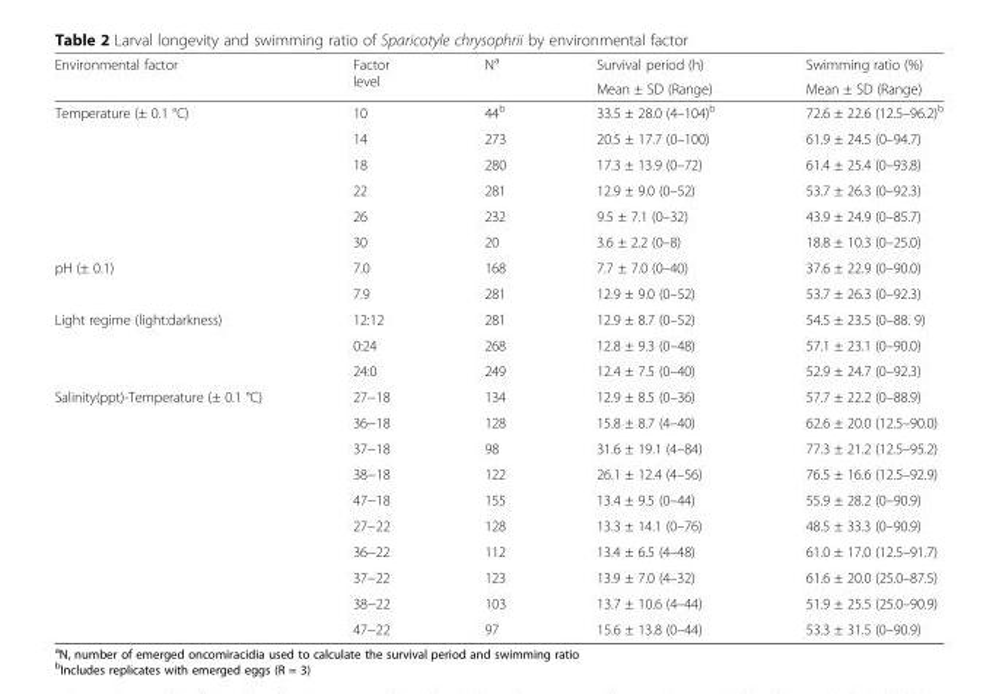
<table><thead><tr><td rowspan="2">Environmental factor</td><td rowspan="2">Factor level</td><td rowspan="2">N<sup>a</sup></td><td rowspan="2">Survival period (h) Mean ± SD (Range)</td><td rowspan="2">Swimming ratio (%) Mean ± SD (Range)</td></tr><tr></tr></thead><tbody><tr><td rowspan="6">Temperature (± 0.1 °C)</td><td>10</td><td>44<sup>b</sup></td><td>33.5 ± 28.0 (4–104)<sup>b</sup></td><td>72.6 ± 22.6 (12.5–96.2)<sup>b</sup></td></tr><tr><td>14</td><td>273</td><td>20.5 ± 17.7 (0–100)</td><td>61.9 ± 24.5 (0–94.7)</td></tr><tr><td>18</td><td>280</td><td>17.3 ± 13.9 (0–72)</td><td>61.4 ± 25.4 (0–93.8)</td></tr><tr><td>22</td><td>281</td><td>12.9 ± 9.0 (0–52)</td><td>53.7 ± 26.3 (0–92.3)</td></tr><tr><td>26</td><td>232</td><td>9.5 ± 7.1 (0–32)</td><td>43.9 ± 24.9 (0–85.7)</td></tr><tr><td>30</td><td>20</td><td>3.6 ± 2.2 (0–8)</td><td>18.8 ± 10.3 (0–25.0)</td></tr><tr><td rowspan="2">pH (± 0.1)</td><td>7.0</td><td>168</td><td>7.7 ± 7.0 (0–40)</td><td>37.6 ± 22.9 (0–90.0)</td></tr><tr><td>7.9</td><td>281</td><td>12.9 ± 9.0 (0–52)</td><td>53.7 ± 26.3 (0–92.3)</td></tr><tr><td rowspan="3">Light regime (light:darkness)</td><td>12:12</td><td>281</td><td>12.9 ± 8.7 (0–52)</td><td>54.5 ± 23.5 (0–88. 9)</td></tr><tr><td>0:24</td><td>268</td><td>12.8 ± 9.3 (0–48)</td><td>57.1 ± 23.1 (0–90.0)</td></tr><tr><td>24:0</td><td>249</td><td>12.4 ± 7.5 (0–40)</td><td>52.9 ± 24.7 (0–92.3)</td></tr><tr><td rowspan="10">Salinity(ppt)-Temperature (± 0.1 °C)</td><td>27−18</td><td>134</td><td>12.9 ± 8.5 (0–36)</td><td>57.7 ± 22.2 (0–88.9)</td></tr><tr><td>36−18</td><td>128</td><td>15.8 ± 8.7 (4–40)</td><td>62.6 ± 20.0 (12.5–90.0)</td></tr><tr><td>37−18</td><td>98</td><td>31.6 ± 19.1 (4–84)</td><td>77.3 ± 21.2 (12.5–95.2)</td></tr><tr><td>38−18</td><td>122</td><td>26.1 ± 12.4 (4–56)</td><td>76.5 ± 16.6 (12.5–92.9)</td></tr><tr><td>47−18</td><td>155</td><td>13.4 ± 9.5 (0–44)</td><td>55.9 ± 28.2 (0–90.9)</td></tr><tr><td>27−22</td><td>128</td><td>13.3 ± 14.1 (0–76)</td><td>48.5 ± 33.3 (0–90.9)</td></tr><tr><td>36−22</td><td>112</td><td>13.4 ± 6.5 (4–48)</td><td>61.0 ± 17.0 (12.5–91.7)</td></tr><tr><td>37−22</td><td>123</td><td>13.9 ± 7.0 (4–32)</td><td>61.6 ± 20.0 (25.0–87.5)</td></tr><tr><td>38−22</td><td>103</td><td>13.7 ± 10.6 (4–44)</td><td>51.9 ± 25.5 (25.0–90.9)</td></tr><tr><td>47−22</td><td>97</td><td>15.6 ± 13.8 (0–44)</td><td>53.3 ± 31.5 (0–90.9)</td></tr></tbody></table>